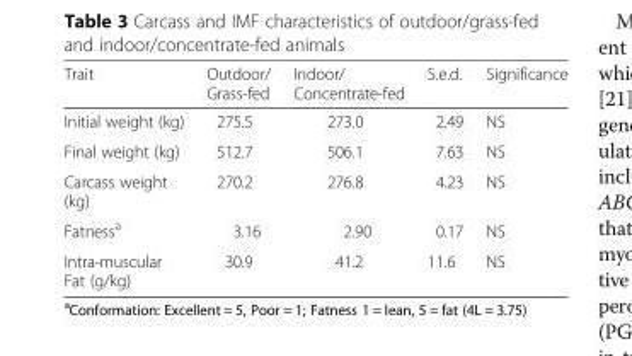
<table><thead><tr><td>Trait</td><td>Outdoor/ Grass-fed</td><td>Indoor/ Concentrate-fed</td><td>S.e.d.</td><td>Significance</td></tr></thead><tbody><tr><td>Initial weight (kg)</td><td>275.5</td><td>273.0</td><td>2.49</td><td>NS</td></tr><tr><td>Final weight (kg)</td><td>512.7</td><td>506.1</td><td>7.63</td><td>NS</td></tr><tr><td>Carcass weight (kg)</td><td>270.2</td><td>276.8</td><td>4.23</td><td>NS</td></tr><tr><td>Fatness<sup>a</sup></td><td>3.16</td><td>2.90</td><td>0.17</td><td>NS</td></tr><tr><td>Intra-muscular Fat (g/kg)</td><td>30.9</td><td>41.2</td><td>11.6</td><td>NS</td></tr></tbody></table>